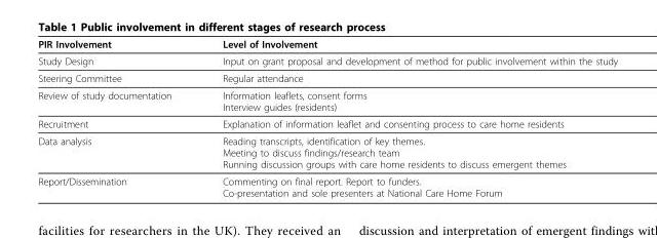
<table><thead><tr><td>PIR Involvement</td><td>Level of Involvement</td></tr></thead><tbody><tr><td>Study Design</td><td>Input on grant proposal and development of method for public involvement within the study</td></tr><tr><td>Steering Committee</td><td>Regular attendance</td></tr><tr><td>Review of study documentation</td><td>Information leaflets, consent forms Interview guides (residents)</td></tr><tr><td>Recruitment</td><td>Explanation of information leaflet and consenting process to care home residents</td></tr><tr><td>Data analysis</td><td>Reading transcripts, identification of key themes. Meeting to discuss findings/research team Running discussion groups with care home residents to discuss emergent themes</td></tr><tr><td>Report/Dissemination</td><td>Commenting on final report. Report to funders. Co-presentation and sole presenters at National Care Home Forum</td></tr></tbody></table>